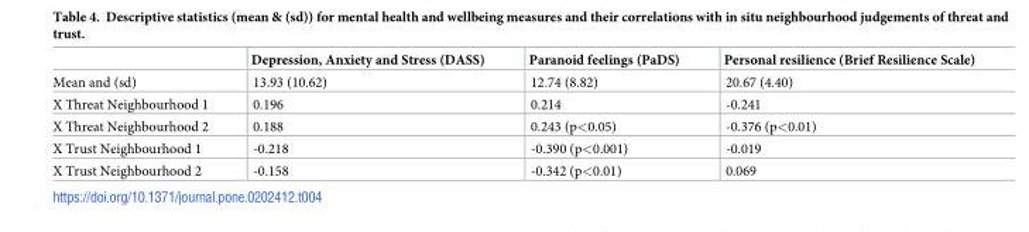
<table><thead><tr><td></td><td>Depression, Anxiety and Stress (DASS)</td><td>Paranoid feelings (PaDS)</td><td>Personal resilience (Brief Resilience Scale)</td></tr></thead><tbody><tr><td>Mean and (sd)</td><td>13.93 (10.62)</td><td>12.74 (8.82)</td><td>20.67 (4.40)</td></tr><tr><td>X Threat Neighbourhood 1</td><td>0.196</td><td>0.214</td><td>-0.241</td></tr><tr><td>X Threat Neighbourhood 2</td><td>0.188</td><td>0.243 (p&lt;0.05)</td><td>-0.376 (p&lt;0.01)</td></tr><tr><td>X Trust Neighbourhood 1</td><td>-0.218</td><td>-0.390 (p&lt;0.001)</td><td>-0.019</td></tr><tr><td>X Trust Neighbourhood 2</td><td>-0.158</td><td>-0.342 (p&lt;0.01)</td><td>0.069</td></tr></tbody></table>